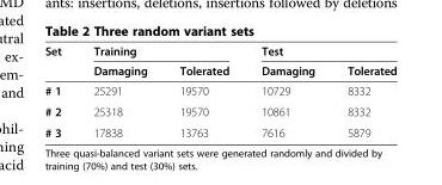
<table><thead><tr><td rowspan="2">Set</td><td colspan="2">Training</td><td colspan="2">Test</td></tr><tr><td>Damaging</td><td>Tolerated</td><td>Damaging</td><td>Tolerated</td></tr></thead><tbody><tr><td># 1</td><td>25291</td><td>19570</td><td>10729</td><td>8332</td></tr><tr><td># 2</td><td>25318</td><td>19570</td><td>10861</td><td>8332</td></tr><tr><td># 3</td><td>17838</td><td>13763</td><td>7616</td><td>5879</td></tr></tbody></table>